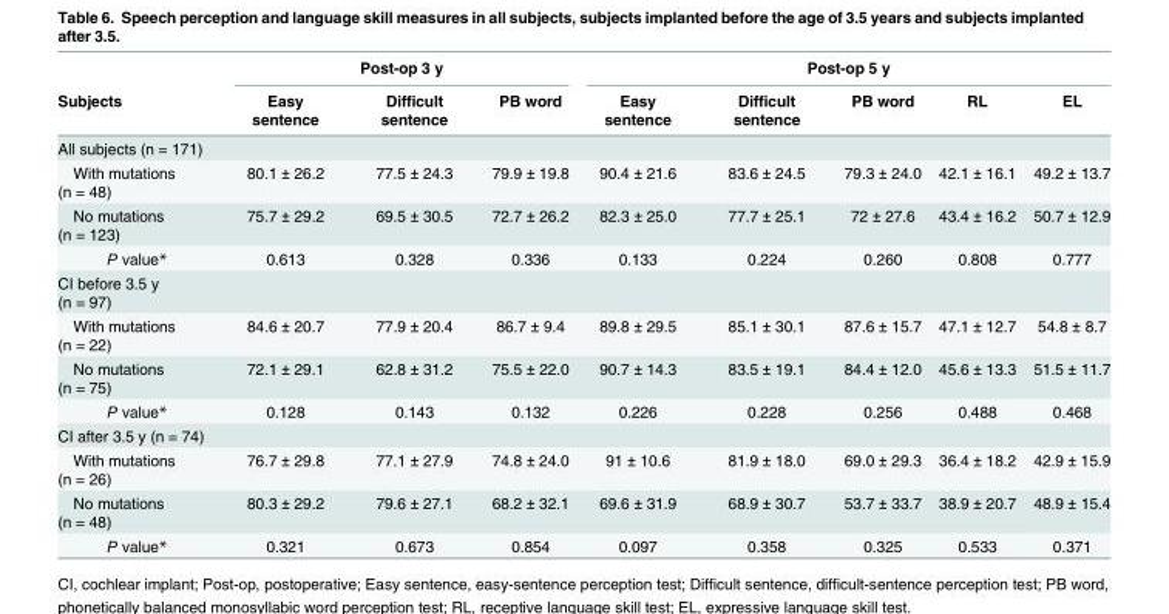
<table><thead><tr><td rowspan="2">Subjects</td><td colspan="3">Post-op 3 y</td><td colspan="5">Post-op 5 y</td></tr><tr><td>Easy sentence</td><td>Difficult sentence</td><td>PB word</td><td>Easy sentence</td><td>Difficult sentence</td><td>PB word</td><td>RL</td><td>EL</td></tr></thead><tbody><tr><td colspan="9">All subjects (n = 171)</td></tr><tr><td>With mutations (n = 48)</td><td>80.1 ± 26.2</td><td>77.5 ± 24.3</td><td>79.9 ± 19.8</td><td>90.4 ± 21.6</td><td>83.6 ± 24.5</td><td>79.3 ± 24.0</td><td>42.1 ± 16.1</td><td>49.2 ± 13.7</td></tr><tr><td>No mutations (n = 123)</td><td>75.7 ± 29.2</td><td>69.5 ± 30.5</td><td>72.7 ± 26.2</td><td>82.3 ± 25.0</td><td>77.7 ± 25.1</td><td>72 ± 27.6</td><td>43.4 ± 16.2</td><td>50.7 ± 12.9</td></tr><tr><td>P value*</td><td>0.613</td><td>0.328</td><td>0.336</td><td>0.133</td><td>0.224</td><td>0.260</td><td>0.808</td><td>0.777</td></tr><tr><td colspan="9">CI before 3.5 y (n = 97)</td></tr><tr><td>With mutations (n = 22)</td><td>84.6 ± 20.7</td><td>77.9 ± 20.4</td><td>86.7 ± 9.4</td><td>89.8 ± 29.5</td><td>85.1 ± 30.1</td><td>87.6 ± 15.7</td><td>47.1 ± 12.7</td><td>54.8 ± 8.7</td></tr><tr><td>No mutations (n = 75)</td><td>72.1 ± 29.1</td><td>62.8 ± 31.2</td><td>75.5 ± 22.0</td><td>90.7 ± 14.3</td><td>83.5 ± 19.1</td><td>84.4 ± 12.0</td><td>45.6 ± 13.3</td><td>51.5 ± 11.7</td></tr><tr><td>P value*</td><td>0.128</td><td>0.143</td><td>0.132</td><td>0.226</td><td>0.228</td><td>0.256</td><td>0.488</td><td>0.468</td></tr><tr><td colspan="9">CI after 3.5 y (n = 74)</td></tr><tr><td>With mutations (n = 26)</td><td>76.7 ± 29.8</td><td>77.1 ± 27.9</td><td>74.8 ± 24.0</td><td>91 ± 10.6</td><td>81.9 ± 18.0</td><td>69.0 ± 29.3</td><td>36.4 ± 18.2</td><td>42.9 ± 15.9</td></tr><tr><td>No mutations (n = 48)</td><td>80.3 ± 29.2</td><td>79.6 ± 27.1</td><td>68.2 ± 32.1</td><td>69.6 ± 31.9</td><td>68.9 ± 30.7</td><td>53.7 ± 33.7</td><td>38.9 ± 20.7</td><td>48.9 ± 15.4</td></tr><tr><td>P value*</td><td>0.321</td><td>0.673</td><td>0.854</td><td>0.097</td><td>0.358</td><td>0.325</td><td>0.533</td><td>0.371</td></tr></tbody></table>